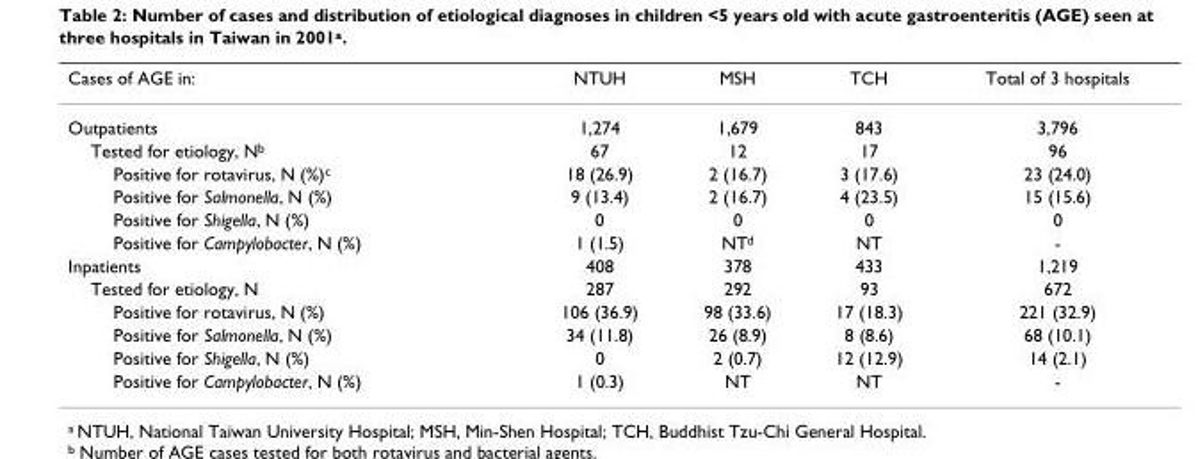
<table><thead><tr><td>Cases of AGE in:</td><td>NTUH</td><td>MSH</td><td>TCH</td><td>Total of 3 hospitals</td></tr></thead><tbody><tr><td>Outpatients</td><td>1,274</td><td>1,679</td><td>843</td><td>3,796</td></tr><tr><td>Tested for etiology, N<sup>b</sup></td><td>67</td><td>12</td><td>17</td><td>96</td></tr><tr><td>Positive for rotavirus, N (%)<sup>c</sup></td><td>18 (26.9)</td><td>2 (16.7)</td><td>3 (17.6)</td><td>23 (24.0)</td></tr><tr><td>Positive for Salmonella, N (%)</td><td>9 (13.4)</td><td>2 (16.7)</td><td>4 (23.5)</td><td>15 (15.6)</td></tr><tr><td>Positive for Shigella, N (%)</td><td>0</td><td>0</td><td>0</td><td>0</td></tr><tr><td>Positive for Campylobacter, N (%)</td><td>1 (1.5)</td><td>NT<sup>d</sup></td><td>NT</td><td>-</td></tr><tr><td>Inpatients</td><td>408</td><td>378</td><td>433</td><td>1,219</td></tr><tr><td>Tested for etiology, N</td><td>287</td><td>292</td><td>93</td><td>672</td></tr><tr><td>Positive for rotavirus, N (%)</td><td>106 (36.9)</td><td>98 (33.6)</td><td>17 (18.3)</td><td>221 (32.9)</td></tr><tr><td>Positive for Salmonella, N (%)</td><td>34 (11.8)</td><td>26 (8.9)</td><td>8 (8.6)</td><td>68 (10.1)</td></tr><tr><td>Positive for Shigella, N (%)</td><td>0</td><td>2 (0.7)</td><td>12 (12.9)</td><td>14 (2.1)</td></tr><tr><td>Positive for Campylobacter, N (%)</td><td>1 (0.3)</td><td>NT</td><td>NT</td><td>-</td></tr></tbody></table>